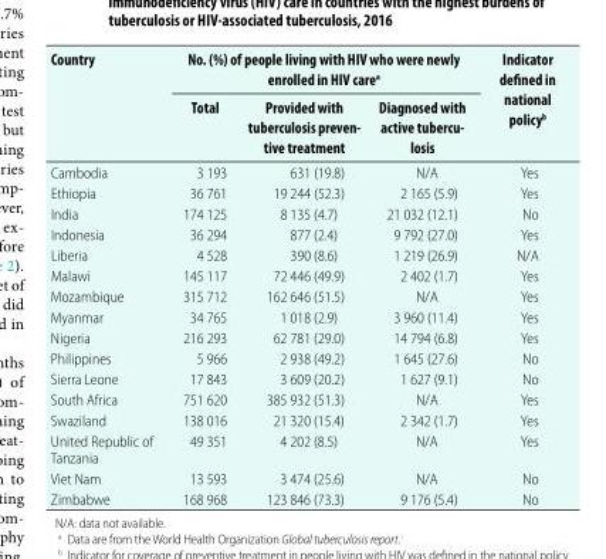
<table><thead><tr><td rowspan="2">Country</td><td colspan="3">No. (%) of people living with HIV who were newly enrolled in HIV care<sup>a</sup></td><td rowspan="2">Indicator defined in national policy<sup>b</sup></td></tr><tr><td>Total</td><td>Provided with tuberculosis preven- tive treatment</td><td>Diagnosed with active tubercu- losis</td></tr></thead><tbody><tr><td>Cambodia</td><td>3 193</td><td>631 (19.8)</td><td>N/A</td><td>Yes</td></tr><tr><td>Ethiopia</td><td>36 761</td><td>19 244 (52.3)</td><td>2 165 (5.9)</td><td>Yes</td></tr><tr><td>India</td><td>174 125</td><td>8 135 (4.7)</td><td>21 032 (12.1)</td><td>No</td></tr><tr><td>Indonesia</td><td>36 294</td><td>877 (2.4)</td><td>9 792 (27.0)</td><td>Yes</td></tr><tr><td>Liberia</td><td>4 528</td><td>390 (8.6)</td><td>1 219 (26.9)</td><td>N/A</td></tr><tr><td>Malawi</td><td>145 117</td><td>72 446 (49.9)</td><td>2 402 (1.7)</td><td>Yes</td></tr><tr><td>Mozambique</td><td>315 712</td><td>162 646 (51.5)</td><td>N/A</td><td>Yes</td></tr><tr><td>Myanmar</td><td>34 765</td><td>1 018 (2.9)</td><td>3 960 (11.4)</td><td>Yes</td></tr><tr><td>Nigeria</td><td>216 293</td><td>62 781 (29.0)</td><td>14 794 (6.8)</td><td>Yes</td></tr><tr><td>Philippines</td><td>5 966</td><td>2 938 (49.2)</td><td>1 645 (27.6)</td><td>No</td></tr><tr><td>Sierra Leone</td><td>17 843</td><td>3 609 (20.2)</td><td>1 627 (9.1)</td><td>No</td></tr><tr><td>South Africa</td><td>751 620</td><td>385 932 (51.3)</td><td>N/A</td><td>Yes</td></tr><tr><td>Swaziland</td><td>138 016</td><td>21 320 (15.4)</td><td>2 342 (1.7)</td><td>Yes</td></tr><tr><td>United Republic of Tanzania</td><td>49 351</td><td>4 202 (8.5)</td><td>N/A</td><td>Yes</td></tr><tr><td>Viet Nam</td><td>13 593</td><td>3 474 (25.6)</td><td>N/A</td><td>No</td></tr><tr><td>Zimbabwe</td><td>168 968</td><td>123 846 (73.3)</td><td>9 176 (5.4)</td><td>No</td></tr></tbody></table>